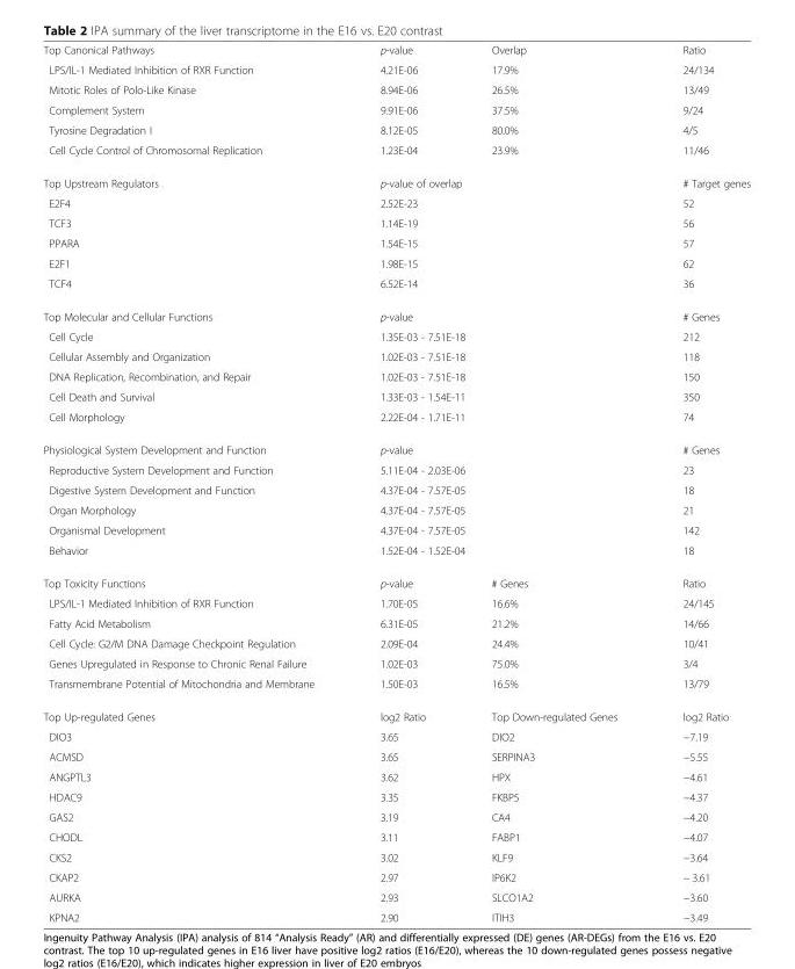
<table><tbody><tr><td>Top Canonical Pathways</td><td>p-value</td><td>Overlap</td><td>Ratio</td></tr><tr><td>LPS/IL-1 Mediated Inhibition of RXR Function</td><td>4.21E-06</td><td>17.9%</td><td>24/134</td></tr><tr><td>Mitotic Roles of Polo-Like Kinase</td><td>8.94E-06</td><td>26.5%</td><td>13/49</td></tr><tr><td>Complement System</td><td>9.91E-06</td><td>37.5%</td><td>9/24</td></tr><tr><td>Tyrosine Degradation I</td><td>8.12E-05</td><td>80.0%</td><td>4/5</td></tr><tr><td>Cell Cycle Control of Chromosomal Replication</td><td>1.23E-04</td><td>23.9%</td><td>11/46</td></tr><tr><td>Top Upstream Regulators</td><td colspan="2">p-value of overlap</td><td># Target genes</td></tr><tr><td>E2F4</td><td colspan="2">2.52E-23</td><td>52</td></tr><tr><td>TCF3</td><td colspan="2">1.14E-19</td><td>56</td></tr><tr><td>PPARA</td><td colspan="2">1.54E-15</td><td>57</td></tr><tr><td>E2F1</td><td colspan="2">1.98E-15</td><td>62</td></tr><tr><td>TCF4</td><td colspan="2">6.52E-14</td><td>36</td></tr><tr><td>Top Molecular and Cellular Functions</td><td colspan="2">p-value</td><td># Genes</td></tr><tr><td>Cell Cycle</td><td colspan="2">1.35E-03 - 7.51E-18</td><td>212</td></tr><tr><td>Cellular Assembly and Organization</td><td colspan="2">1.02E-03 - 7.51E-18</td><td>118</td></tr><tr><td>DNA Replication, Recombination, and Repair</td><td colspan="2">1.02E-03 - 7.51E-18</td><td>150</td></tr><tr><td>Cell Death and Survival</td><td colspan="2">1.33E-03 - 1.54E-11</td><td>350</td></tr><tr><td>Cell Morphology</td><td colspan="2">2.22E-04 - 1.71E-11</td><td>74</td></tr><tr><td>Physiological System Development and Function</td><td colspan="2">p-value</td><td># Genes</td></tr><tr><td>Reproductive System Development and Function</td><td colspan="2">5.11E-04 - 2.03E-06</td><td>23</td></tr><tr><td>Digestive System Development and Function</td><td colspan="2">4.37E-04 - 7.57E-05</td><td>18</td></tr><tr><td>Organ Morphology</td><td colspan="2">4.37E-04 - 7.57E-05</td><td>21</td></tr><tr><td>Organismal Development</td><td colspan="2">4.37E-04 - 7.57E-05</td><td>142</td></tr><tr><td>Behavior</td><td colspan="2">1.52E-04 - 1.52E-04</td><td>18</td></tr><tr><td>Top Toxicity Functions</td><td>p-value</td><td># Genes</td><td>Ratio</td></tr><tr><td>LPS/IL-1 Mediated Inhibition of RXR Function</td><td>1.70E-05</td><td>16.6%</td><td>24/145</td></tr><tr><td>Fatty Acid Metabolism</td><td>6.31E-05</td><td>21.2%</td><td>14/66</td></tr><tr><td>Cell Cycle: G2/M DNA Damage Checkpoint Regulation</td><td>2.09E-04</td><td>24.4%</td><td>10/41</td></tr><tr><td>Genes Upregulated in Response to Chronic Renal Failure</td><td>1.02E-03</td><td>75.0%</td><td>3/4</td></tr><tr><td>Transmembrane Potential of Mitochondria and Membrane</td><td>1.50E-03</td><td>16.5%</td><td>13/79</td></tr><tr><td>Top Up-regulated Genes</td><td>log2 Ratio</td><td>Top Down-regulated Genes</td><td>log2 Ratio</td></tr><tr><td>DIO3</td><td>3.65</td><td>DIO2</td><td>−7.19</td></tr><tr><td>ACMSD</td><td>3.65</td><td>SERPINA3</td><td>−5.55</td></tr><tr><td>ANGPTL3</td><td>3.62</td><td>HPX</td><td>−4.61</td></tr><tr><td>HDAC9</td><td>3.35</td><td>FKBP5</td><td>−4.37</td></tr><tr><td>GAS2</td><td>3.19</td><td>CA4</td><td>−4.20</td></tr><tr><td>CHODL</td><td>3.11</td><td>FABP1</td><td>−4.07</td></tr><tr><td>CKS2</td><td>3.02</td><td>KLF9</td><td>−3.64</td></tr><tr><td>CKAP2</td><td>2.97</td><td>IP6K2</td><td>− 3.61</td></tr><tr><td>AURKA</td><td>2.93</td><td>SLCO1A2</td><td>−3.60</td></tr><tr><td>KPNA2</td><td>2.90</td><td>ITIH3</td><td>−3.49</td></tr></tbody></table>